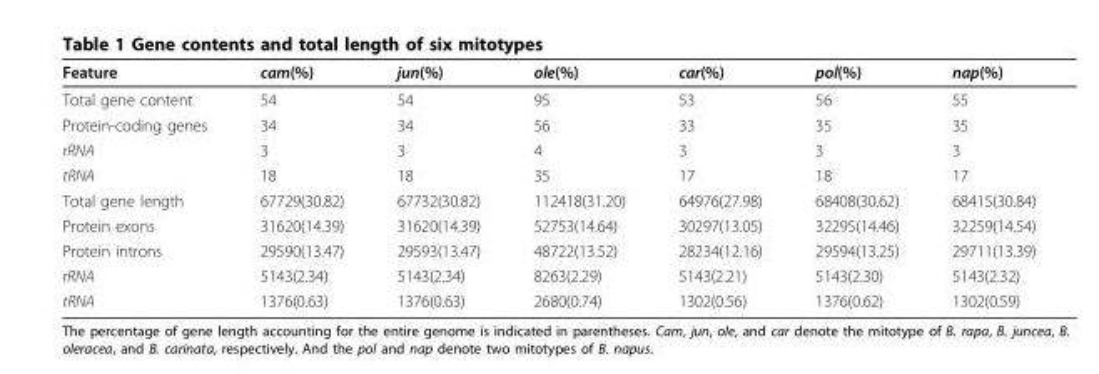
<table><thead><tr><td>Feature</td><td>cam(%)</td><td>jun(%)</td><td>ole(%)</td><td>car(%)</td><td>pol(%)</td><td>nap(%)</td></tr></thead><tbody><tr><td>Total gene content</td><td>54</td><td>54</td><td>95</td><td>53</td><td>56</td><td>55</td></tr><tr><td>Protein-coding genes</td><td>34</td><td>34</td><td>56</td><td>33</td><td>35</td><td>35</td></tr><tr><td>rRNA</td><td>3</td><td>3</td><td>4</td><td>3</td><td>3</td><td>3</td></tr><tr><td>tRNA</td><td>18</td><td>18</td><td>35</td><td>17</td><td>18</td><td>17</td></tr><tr><td>Total gene length</td><td>67729(30.82)</td><td>67732(30.82)</td><td>112418(31.20)</td><td>64976(27.98)</td><td>68408(30.62)</td><td>68415(30.84)</td></tr><tr><td>Protein exons</td><td>31620(14.39)</td><td>31620(14.39)</td><td>52753(14.64)</td><td>30297(13.05)</td><td>32295(14.46)</td><td>32259(14.54)</td></tr><tr><td>Protein introns</td><td>29590(13.47)</td><td>29593(13.47)</td><td>48722(13.52)</td><td>28234(12.16)</td><td>29594(13.25)</td><td>29711(13.39)</td></tr><tr><td>rRNA</td><td>5143(2.34)</td><td>5143(2.34)</td><td>8263(2.29)</td><td>5143(2.21)</td><td>5143(2.30)</td><td>5143(2.32)</td></tr><tr><td>tRNA</td><td>1376(0.63)</td><td>1376(0.63)</td><td>2680(0.74)</td><td>1302(0.56)</td><td>1376(0.62)</td><td>1302(0.59)</td></tr></tbody></table>